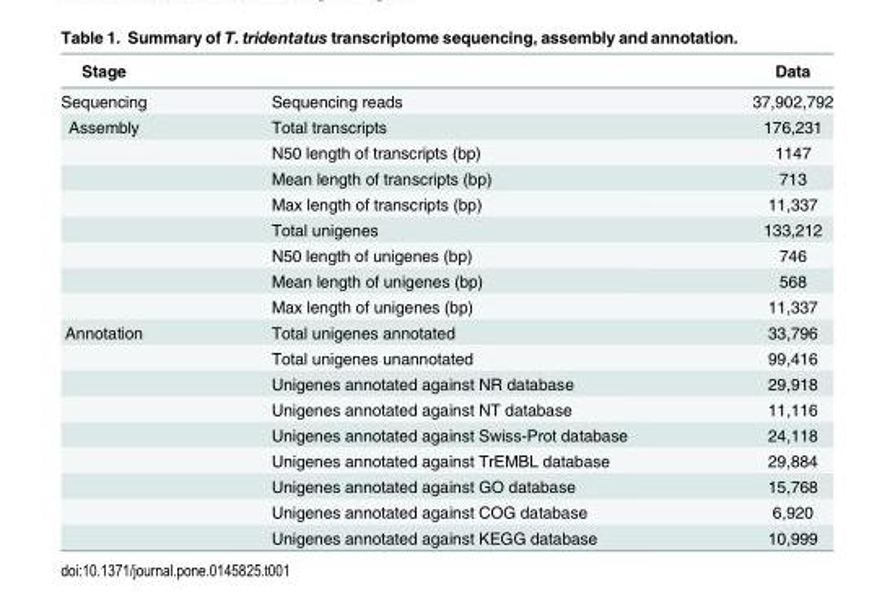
<table><thead><tr><td>Stage</td><td></td><td>Data</td></tr></thead><tbody><tr><td>Sequencing</td><td>Sequencing reads</td><td>37,902,792</td></tr><tr><td rowspan="8">Assembly</td><td>Total transcripts</td><td>176,231</td></tr><tr><td>N50 length of transcripts (bp)</td><td>1147</td></tr><tr><td>Mean length of transcripts (bp)</td><td>713</td></tr><tr><td>Max length of transcripts (bp)</td><td>11,337</td></tr><tr><td>Total unigenes</td><td>133,212</td></tr><tr><td>N50 length of unigenes (bp)</td><td>746</td></tr><tr><td>Mean length of unigenes (bp)</td><td>568</td></tr><tr><td>Max length of unigenes (bp)</td><td>11,337</td></tr><tr><td rowspan="9">Annotation</td><td>Total unigenes annotated</td><td>33,796</td></tr><tr><td>Total unigenes unannotated</td><td>99,416</td></tr><tr><td>Unigenes annotated against NR database</td><td>29,918</td></tr><tr><td>Unigenes annotated against NT database</td><td>11,116</td></tr><tr><td>Unigenes annotated against Swiss-Prot database</td><td>24,118</td></tr><tr><td>Unigenes annotated against TrEMBL database</td><td>29,884</td></tr><tr><td>Unigenes annotated against GO database</td><td>15,768</td></tr><tr><td>Unigenes annotated against COG database</td><td>6,920</td></tr><tr><td>Unigenes annotated against KEGG database</td><td>10,999</td></tr></tbody></table>